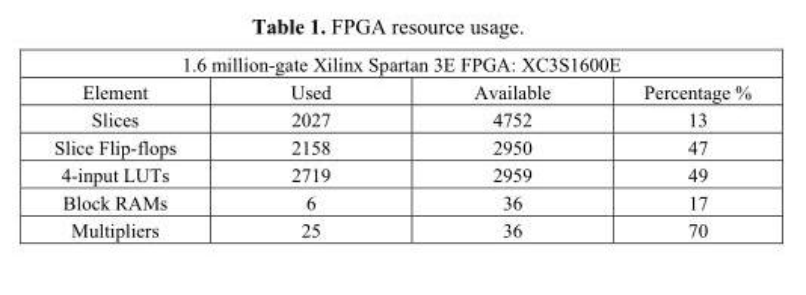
<table><thead><tr><td colspan="4">1.6 million-gate Xilinx Spartan 3E FPGA: XC3S1600E</td></tr><tr><td>Element</td><td>Used</td><td>Available</td><td>Percentage %</td></tr></thead><tbody><tr><td>Slices</td><td>2027</td><td>4752</td><td>13</td></tr><tr><td>Slice Flip-flops</td><td>2158</td><td>2950</td><td>47</td></tr><tr><td>4-input LUTs</td><td>2719</td><td>2959</td><td>49</td></tr><tr><td>Block RAMs</td><td>6</td><td>36</td><td>17</td></tr><tr><td>Multipliers</td><td>25</td><td>36</td><td>70</td></tr></tbody></table>